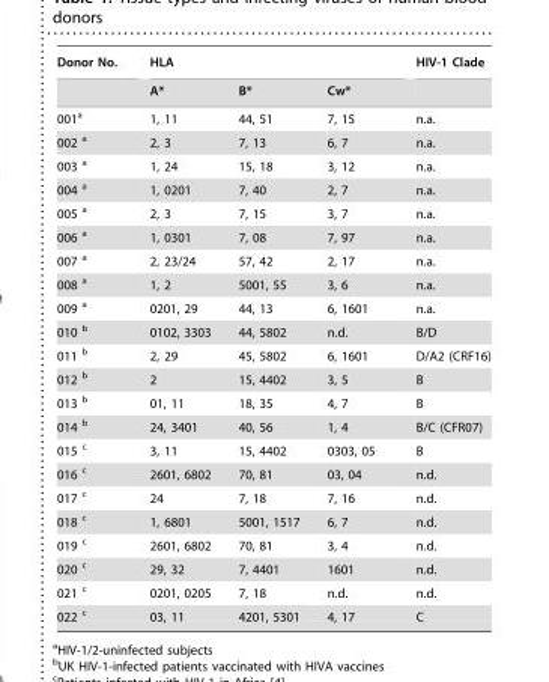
<table><thead><tr><td rowspan="2">Donor No.</td><td colspan="3">HLA</td><td rowspan="2">HIV-1 Clade</td></tr><tr><td>A*</td><td>B*</td><td>Cw*</td></tr></thead><tbody><tr><td>001<sup>a</sup></td><td>1, 11</td><td>44, 51</td><td>7, 15</td><td>n.a.</td></tr><tr><td>002 a</td><td>2, 3</td><td>7, 13</td><td>6, 7</td><td>n.a.</td></tr><tr><td>003 a</td><td>1, 24</td><td>15, 18</td><td>3, 12</td><td>n.a.</td></tr><tr><td>004 a</td><td>1, 0201</td><td>7, 40</td><td>2, 7</td><td>n.a.</td></tr><tr><td>005 a</td><td>2, 3</td><td>7, 15</td><td>3, 7</td><td>n.a.</td></tr><tr><td>006 a</td><td>1, 0301</td><td>7, 08</td><td>7, 97</td><td>n.a.</td></tr><tr><td>007 a</td><td>2, 23/24</td><td>57, 42</td><td>2, 17</td><td>n.a.</td></tr><tr><td>008 a</td><td>1, 2</td><td>5001, 55</td><td>3, 6</td><td>n.a.</td></tr><tr><td>009 a</td><td>0201, 29</td><td>44, 13</td><td>6, 1601</td><td>n.a.</td></tr><tr><td>010 b</td><td>0102, 3303</td><td>44, 5802</td><td>n.d.</td><td>B/D</td></tr><tr><td>011 b</td><td>2, 29</td><td>45, 5802</td><td>6, 1601</td><td>D/A2 (CRF16)</td></tr><tr><td>012 b</td><td>2</td><td>15, 4402</td><td>3, 5</td><td>B</td></tr><tr><td>013 b</td><td>01, 11</td><td>18, 35</td><td>4, 7</td><td>B</td></tr><tr><td>014 b</td><td>24, 3401</td><td>40, 56</td><td>1, 4</td><td>B/C (CFR07)</td></tr><tr><td>015 c</td><td>3, 11</td><td>15, 4402</td><td>0303, 05</td><td>B</td></tr><tr><td>016 c</td><td>2601, 6802</td><td>70, 81</td><td>03, 04</td><td>n.d.</td></tr><tr><td>017 c</td><td>24</td><td>7, 18</td><td>7, 16</td><td>n.d.</td></tr><tr><td>018 c</td><td>1, 6801</td><td>5001, 1517</td><td>6, 7</td><td>n.d.</td></tr><tr><td>019 c</td><td>2601, 6802</td><td>70, 81</td><td>3, 4</td><td>n.d.</td></tr><tr><td>020 c</td><td>29, 32</td><td>7, 4401</td><td>1601</td><td>n.d.</td></tr><tr><td>021 c</td><td>0201, 0205</td><td>7, 18</td><td>n.d.</td><td>n.d.</td></tr><tr><td>022 c</td><td>03, 11</td><td>4201, 5301</td><td>4, 17</td><td>C</td></tr></tbody></table>